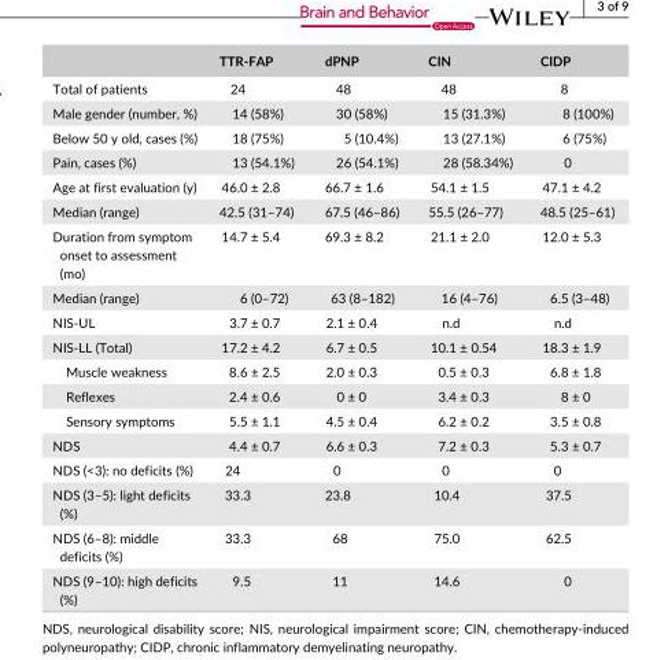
<table><thead><tr><td></td><td>TTR- FAP</td><td>dPNP</td><td>CIN</td><td>CIDP</td></tr></thead><tbody><tr><td>Total of patients</td><td>24</td><td>48</td><td>48</td><td>8</td></tr><tr><td>Male gender (number, %)</td><td>14 (58%)</td><td>30 (58%)</td><td>15 (31.3%)</td><td>8 (100%)</td></tr><tr><td>Below 50 y old, cases (%)</td><td>18 (75%)</td><td>5 (10.4%)</td><td>13 (27.1%)</td><td>6 (75%)</td></tr><tr><td>Pain, cases (%)</td><td>13 (54.1%)</td><td>26 (54.1%)</td><td>28 (58.34%)</td><td>0</td></tr><tr><td>Age at first evaluation (y)</td><td>46.0 ± 2.8</td><td>66.7 ± 1.6</td><td>54.1 ± 1.5</td><td>47.1 ± 4.2</td></tr><tr><td>Median (range)</td><td>42.5 (31–74)</td><td>67.5 (46–86)</td><td>55.5 (26–77)</td><td>48.5 (25–61)</td></tr><tr><td>Duration from symptom onset to assessment (mo)</td><td>14.7 ± 5.4</td><td>69.3 ± 8.2</td><td>21.1 ± 2.0</td><td>12.0 ± 5.3</td></tr><tr><td>Median (range)</td><td>6 (0–72)</td><td>63 (8–182)</td><td>16 (4–76)</td><td>6.5 (3–48)</td></tr><tr><td>NIS- UL</td><td>3.7 ± 0.7</td><td>2.1 ± 0.4</td><td>n.d</td><td>n.d</td></tr><tr><td>NIS- LL (Total)</td><td>17.2 ± 4.2</td><td>6.7 ± 0.5</td><td>10.1 ± 0.54</td><td>18.3 ± 1.9</td></tr><tr><td>Muscle weakness</td><td>8.6 ± 2.5</td><td>2.0 ± 0.3</td><td>0.5 ± 0.3</td><td>6.8 ± 1.8</td></tr><tr><td>Reflexes</td><td>2.4 ± 0.6</td><td>0 ± 0</td><td>3.4 ± 0.3</td><td>8 ± 0</td></tr><tr><td>Sensory symptoms</td><td>5.5 ± 1.1</td><td>4.5 ± 0.4</td><td>6.2 ± 0.2</td><td>3.5 ± 0.8</td></tr><tr><td>NDS</td><td>4.4 ± 0.7</td><td>6.6 ± 0.3</td><td>7.2 ± 0.3</td><td>5.3 ± 0.7</td></tr><tr><td>NDS (&lt;3): no deficits (%)</td><td>24</td><td>0</td><td>0</td><td>0</td></tr><tr><td>NDS (3–5): light deficits (%)</td><td>33.3</td><td>23.8</td><td>10.4</td><td>37.5</td></tr><tr><td>NDS (6–8): middle deficits (%)</td><td>33.3</td><td>68</td><td>75.0</td><td>62.5</td></tr><tr><td>NDS (9–10): high deficits (%)</td><td>9.5</td><td>11</td><td>14.6</td><td>0</td></tr></tbody></table>